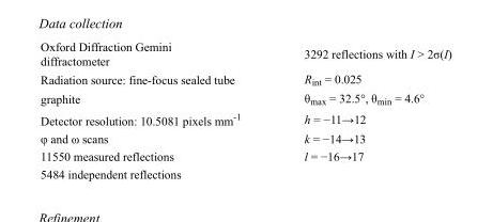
<table><tbody><tr><td>Oxford Diffraction Gemini diffractometer</td><td>3292 reflections with I &gt; 2σ(I)</td></tr><tr><td>Radiation source: fine-focus sealed tube</td><td>R<sub>int</sub> = 0.025</td></tr><tr><td>graphite</td><td>θ<sub>max</sub> = 32.5°, θ<sub>min</sub> = 4.6°</td></tr><tr><td>Detector resolution: 10.5081 pixels mm<sup>-1</sup></td><td>h = −11→12</td></tr><tr><td>φ and ω scans</td><td>k = −14→13</td></tr><tr><td>11550 measured reflections</td><td>l = −16→17</td></tr><tr><td>5484 independent reflections</td><td></td></tr></tbody></table>